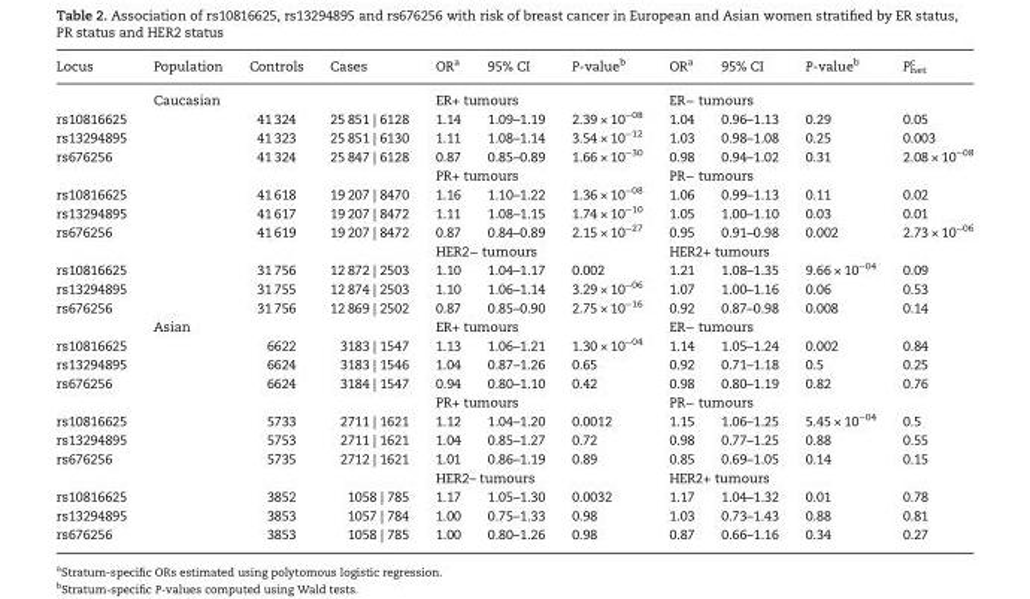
<table><thead><tr><td>Locus</td><td>Population</td><td>Controls</td><td>Cases</td><td>OR<sup>a</sup></td><td>95% CI</td><td>P-value<sup>b</sup></td><td>OR<sup>a</sup></td><td>95% CI</td><td>P-value<sup>b</sup></td><td>P<sub>het</sub> <sup>c</sup></td></tr></thead><tbody><tr><td></td><td>Caucasian</td><td></td><td></td><td colspan="3">ER+ tumours</td><td colspan="3">ER− tumours</td><td></td></tr><tr><td>rs10816625</td><td></td><td>41 324</td><td>25 851 | 6128</td><td>1.14</td><td>1.09–1.19</td><td>2.39 × 10<sup>−08</sup></td><td>1.04</td><td>0.96–1.13</td><td>0.29</td><td>0.05</td></tr><tr><td>rs13294895</td><td></td><td>41 323</td><td>25 851 | 6130</td><td>1.11</td><td>1.08–1.14</td><td>3.54 × 10<sup>−12</sup></td><td>1.03</td><td>0.98–1.08</td><td>0.25</td><td>0.003</td></tr><tr><td rowspan="2">rs676256</td><td></td><td>41 324</td><td>25 847 | 6128</td><td>0.87</td><td>0.85–0.89</td><td>1.66 × 10<sup>−30</sup></td><td>0.98</td><td>0.94–1.02</td><td>0.31</td><td>2.08 × 10<sup>−08</sup></td></tr><tr><td></td><td></td><td></td><td colspan="3">PR+ tumours</td><td colspan="3">PR− tumours</td><td></td></tr><tr><td>rs10816625</td><td></td><td>41 618</td><td>19 207 | 8470</td><td>1.16</td><td>1.10–1.22</td><td>1.36 × 10<sup>−08</sup></td><td>1.06</td><td>0.99–1.13</td><td>0.11</td><td>0.02</td></tr><tr><td>rs13294895</td><td></td><td>41 617</td><td>19 207 | 8472</td><td>1.11</td><td>1.08–1.15</td><td>1.74 × 10<sup>−10</sup></td><td>1.05</td><td>1.00–1.10</td><td>0.03</td><td>0.01</td></tr><tr><td rowspan="2">rs676256</td><td></td><td>41 619</td><td>19 207 | 8472</td><td>0.87</td><td>0.84–0.89</td><td>2.15 × 10<sup>−27</sup></td><td>0.95</td><td>0.91–0.98</td><td>0.002</td><td>2.73 × 10<sup>−06</sup></td></tr><tr><td></td><td></td><td></td><td colspan="3">HER2− tumours</td><td colspan="3">HER2+ tumours</td><td></td></tr><tr><td>rs10816625</td><td></td><td>31 756</td><td>12 872 | 2503</td><td>1.10</td><td>1.04–1.17</td><td>0.002</td><td>1.21</td><td>1.08–1.35</td><td>9.66 × 10<sup>−04</sup></td><td>0.09</td></tr><tr><td>rs13294895</td><td></td><td>31 755</td><td>12 874 | 2503</td><td>1.10</td><td>1.06–1.14</td><td>3.29 × 10<sup>−06</sup></td><td>1.07</td><td>1.00–1.16</td><td>0.06</td><td>0.53</td></tr><tr><td rowspan="2">rs676256</td><td></td><td>31 756</td><td>12 869 | 2502</td><td>0.87</td><td>0.85–0.90</td><td>2.75 × 10<sup>−16</sup></td><td>0.92</td><td>0.87–0.98</td><td>0.008</td><td>0.14</td></tr><tr><td>Asian</td><td></td><td></td><td colspan="3">ER+ tumours</td><td colspan="3">ER− tumours</td><td></td></tr><tr><td>rs10816625</td><td></td><td>6622</td><td>3183 | 1547</td><td>1.13</td><td>1.06–1.21</td><td>1.30 × 10<sup>−04</sup></td><td>1.14</td><td>1.05–1.24</td><td>0.002</td><td>0.84</td></tr><tr><td>rs13294895</td><td></td><td>6624</td><td>3183 | 1546</td><td>1.04</td><td>0.87–1.26</td><td>0.65</td><td>0.92</td><td>0.71–1.18</td><td>0.5</td><td>0.25</td></tr><tr><td rowspan="2">rs676256</td><td></td><td>6624</td><td>3184 | 1547</td><td>0.94</td><td>0.80–1.10</td><td>0.42</td><td>0.98</td><td>0.80–1.19</td><td>0.82</td><td>0.76</td></tr><tr><td></td><td></td><td></td><td colspan="3">PR+ tumours</td><td colspan="3">PR− tumours</td><td></td></tr><tr><td>rs10816625</td><td></td><td>5733</td><td>2711 | 1621</td><td>1.12</td><td>1.04–1.20</td><td>0.0012</td><td>1.15</td><td>1.06–1.25</td><td>5.45 × 10<sup>−04</sup></td><td>0.5</td></tr><tr><td>rs13294895</td><td></td><td>5753</td><td>2711 | 1621</td><td>1.04</td><td>0.85–1.27</td><td>0.72</td><td>0.98</td><td>0.77–1.25</td><td>0.88</td><td>0.55</td></tr><tr><td rowspan="2">rs676256</td><td></td><td>5735</td><td>2712 | 1621</td><td>1.01</td><td>0.86–1.19</td><td>0.89</td><td>0.85</td><td>0.69–1.05</td><td>0.14</td><td>0.15</td></tr><tr><td></td><td></td><td></td><td colspan="3">HER2– tumours</td><td colspan="3">HER2+ tumours</td><td></td></tr><tr><td>rs10816625</td><td></td><td>3852</td><td>1058 | 785</td><td>1.17</td><td>1.05–1.30</td><td>0.0032</td><td>1.17</td><td>1.04–1.32</td><td>0.01</td><td>0.78</td></tr><tr><td>rs13294895</td><td></td><td>3853</td><td>1057 | 784</td><td>1.00</td><td>0.75–1.33</td><td>0.98</td><td>1.03</td><td>0.73–1.43</td><td>0.88</td><td>0.81</td></tr><tr><td>rs676256</td><td></td><td>3853</td><td>1058 | 785</td><td>1.00</td><td>0.80–1.26</td><td>0.98</td><td>0.87</td><td>0.66–1.16</td><td>0.34</td><td>0.27</td></tr></tbody></table>